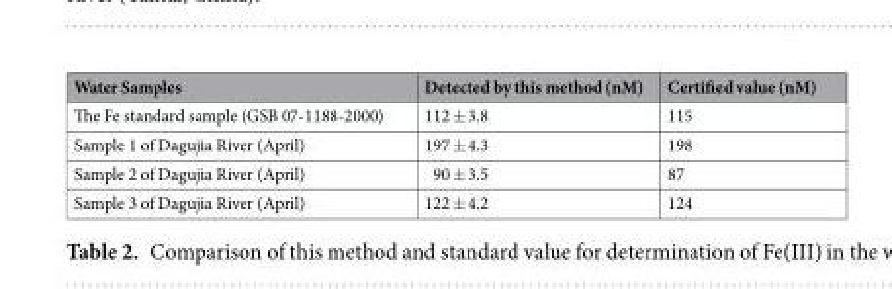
<table><thead><tr><td>Water Samples</td><td>Detected by this method (nM)</td><td>Certified value (nM)</td></tr></thead><tbody><tr><td>The Fe standard sample (GSB 07-1188-2000)</td><td>112 ± 3.8</td><td>115</td></tr><tr><td>Sample 1 of Dagujia River (April)</td><td>197 ± 4.3</td><td>198</td></tr><tr><td>Sample 2 of Dagujia River (April)</td><td>90 ± 3.5</td><td>87</td></tr><tr><td>Sample 3 of Dagujia River (April)</td><td>122 ± 4.2</td><td>124</td></tr></tbody></table>